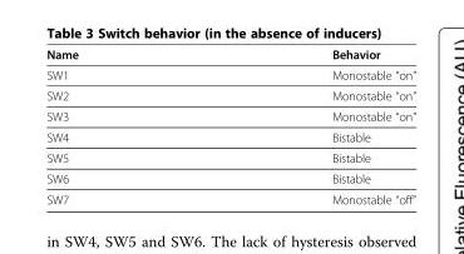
<table><thead><tr><td>Name</td><td>Behavior</td></tr></thead><tbody><tr><td>SW1</td><td>Monostable “on”</td></tr><tr><td>SW2</td><td>Monostable “on”</td></tr><tr><td>SW3</td><td>Monostable “on”</td></tr><tr><td>SW4</td><td>Bistable</td></tr><tr><td>SW5</td><td>Bistable</td></tr><tr><td>SW6</td><td>Bistable</td></tr><tr><td>SW7</td><td>Monostable “off”</td></tr></tbody></table>